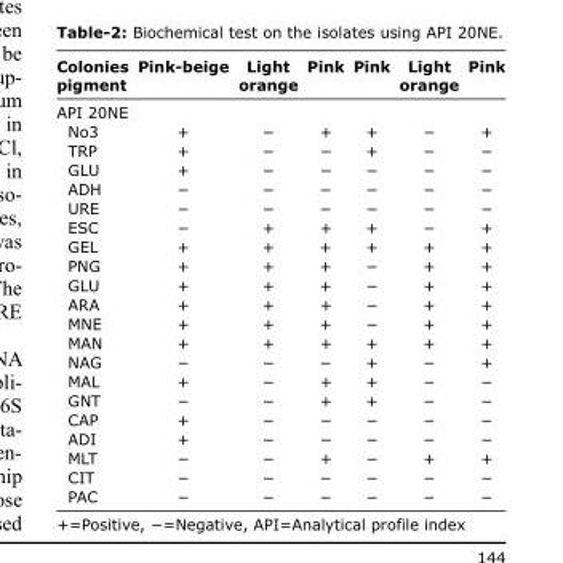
<table><thead><tr><td>Colonies pigment</td><td>Pink-beige</td><td>Light orange</td><td>Pink</td><td>Pink</td><td>Light orange</td><td>Pink</td></tr></thead><tbody><tr><td colspan="7">API 20NE</td></tr><tr><td>No3</td><td>+</td><td>−</td><td>+</td><td>+</td><td>−</td><td>+</td></tr><tr><td>TRP</td><td>+</td><td>−</td><td>−</td><td>+</td><td>−</td><td>−</td></tr><tr><td>GLU</td><td>+</td><td>−</td><td>−</td><td>−</td><td>−</td><td>−</td></tr><tr><td>ADH</td><td>−</td><td>−</td><td>−</td><td>−</td><td>−</td><td>−</td></tr><tr><td>URE</td><td>−</td><td>−</td><td>−</td><td>−</td><td>−</td><td>−</td></tr><tr><td>ESC</td><td>−</td><td>+</td><td>+</td><td>+</td><td>−</td><td>+</td></tr><tr><td>GEL</td><td>+</td><td>+</td><td>+</td><td>+</td><td>+</td><td>+</td></tr><tr><td>PNG</td><td>+</td><td>+</td><td>+</td><td>−</td><td>+</td><td>+</td></tr><tr><td>GLU</td><td>+</td><td>+</td><td>+</td><td>−</td><td>+</td><td>+</td></tr><tr><td>ARA</td><td>+</td><td>+</td><td>+</td><td>−</td><td>+</td><td>+</td></tr><tr><td>MNE</td><td>+</td><td>+</td><td>+</td><td>−</td><td>+</td><td>+</td></tr><tr><td>MAN</td><td>+</td><td>+</td><td>+</td><td>+</td><td>+</td><td>+</td></tr><tr><td>NAG</td><td>−</td><td>−</td><td>−</td><td>+</td><td>−</td><td>+</td></tr><tr><td>MAL</td><td>+</td><td>−</td><td>+</td><td>+</td><td>−</td><td>−</td></tr><tr><td>GNT</td><td>−</td><td>−</td><td>+</td><td>+</td><td>−</td><td>−</td></tr><tr><td>CAP</td><td>+</td><td>−</td><td>−</td><td>−</td><td>−</td><td>−</td></tr><tr><td>ADI</td><td>+</td><td>−</td><td>−</td><td>−</td><td>−</td><td>−</td></tr><tr><td>MLT</td><td>−</td><td>−</td><td>+</td><td>−</td><td>+</td><td>+</td></tr><tr><td>CIT</td><td>−</td><td>−</td><td>−</td><td>−</td><td>−</td><td>−</td></tr><tr><td>PAC</td><td>−</td><td>−</td><td>−</td><td>−</td><td>−</td><td>−</td></tr></tbody></table>